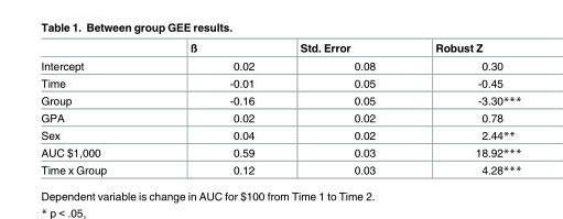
<table><thead><tr><td></td><td>ß</td><td>Std. Error</td><td>Robust Z</td></tr></thead><tbody><tr><td>Intercept</td><td>0.02</td><td>0.08</td><td>0.30</td></tr><tr><td>Time</td><td>-0.01</td><td>0.05</td><td>-0.45</td></tr><tr><td>Group</td><td>-0.16</td><td>0.05</td><td>-3.30***</td></tr><tr><td>GPA</td><td>0.02</td><td>0.02</td><td>0.78</td></tr><tr><td>Sex</td><td>0.04</td><td>0.02</td><td>2.44**</td></tr><tr><td>AUC $1,000</td><td>0.59</td><td>0.03</td><td>18.92***</td></tr><tr><td>Time x Group</td><td>0.12</td><td>0.03</td><td>4.28***</td></tr></tbody></table>